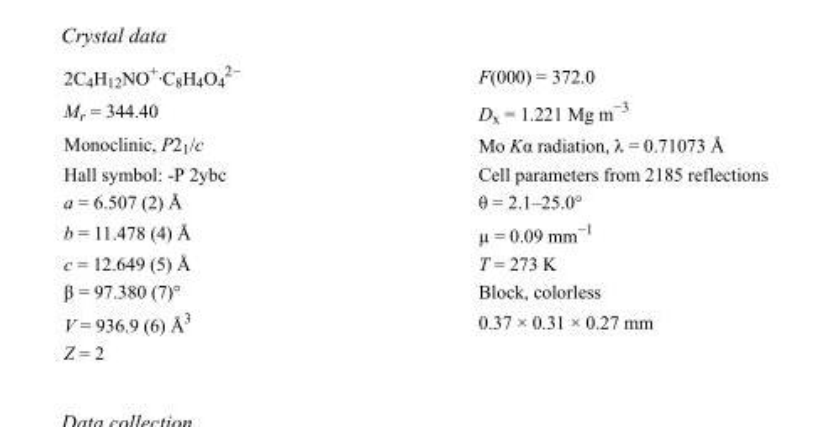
<table><tbody><tr><td>2C<sub>4</sub>H<sub>12</sub>NO<sup>+</sup>·C<sub>8</sub>H<sub>4</sub>O<sub>4</sub> <sup>2−</sup></td><td>F(000) = 372.0</td></tr><tr><td>M<sub>r</sub> = 344.40</td><td>D<sub>x</sub> = 1.221 Mg m<sup>−3</sup></td></tr><tr><td>Monoclinic, P2<sub>1</sub>/c</td><td>Mo Kα radiation, λ = 0.71073 Å</td></tr><tr><td>Hall symbol: -P 2ybc</td><td>Cell parameters from 2185 reflections</td></tr><tr><td>a = 6.507 (2) Å</td><td>θ = 2.1–25.0°</td></tr><tr><td>b = 11.478 (4) Å</td><td>µ = 0.09 mm<sup>−1</sup></td></tr><tr><td>c = 12.649 (5) Å</td><td>T = 273 K</td></tr><tr><td>β = 97.380 (7)°</td><td>Block, colorless</td></tr><tr><td>V = 936.9 (6) Å<sup>3</sup></td><td>0.37 × 0.31 × 0.27 mm</td></tr><tr><td>Z = 2</td><td></td></tr></tbody></table>